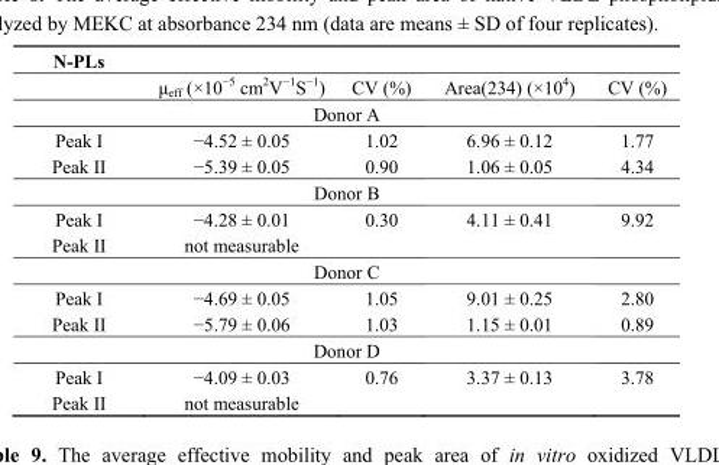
<table><thead><tr><td rowspan="2">N-PLs</td><td rowspan="2">μ<sub>eff</sub> (×10<sup>−5</sup> cm<sup>2</sup>V<sup>−1</sup>S<sup>−1</sup>)</td><td rowspan="2">CV (%)</td><td rowspan="2">Area(234) (×10<sup>4</sup>)</td><td rowspan="2">CV (%)</td></tr><tr></tr></thead><tbody><tr><td colspan="5">Donor A</td></tr><tr><td>Peak I</td><td>−4.52 ± 0.05</td><td>1.02</td><td>6.96 ± 0.12</td><td>1.77</td></tr><tr><td>Peak II</td><td>−5.39 ± 0.05</td><td>0.90</td><td>1.06 ± 0.05</td><td>4.34</td></tr><tr><td colspan="5">Donor B</td></tr><tr><td>Peak I</td><td>−4.28 ± 0.01</td><td>0.30</td><td>4.11 ± 0.41</td><td>9.92</td></tr><tr><td>Peak II</td><td>not measurable</td><td></td><td></td><td></td></tr><tr><td colspan="5">Donor C</td></tr><tr><td>Peak I</td><td>−4.69 ± 0.05</td><td>1.05</td><td>9.01 ± 0.25</td><td>2.80</td></tr><tr><td>Peak II</td><td>−5.79 ± 0.06</td><td>1.03</td><td>1.15 ± 0.01</td><td>0.89</td></tr><tr><td colspan="5">Donor D</td></tr><tr><td>Peak I</td><td>−4.09 ± 0.03</td><td>0.76</td><td>3.37 ± 0.13</td><td>3.78</td></tr><tr><td>Peak II</td><td>not measurable</td><td></td><td></td><td></td></tr></tbody></table>